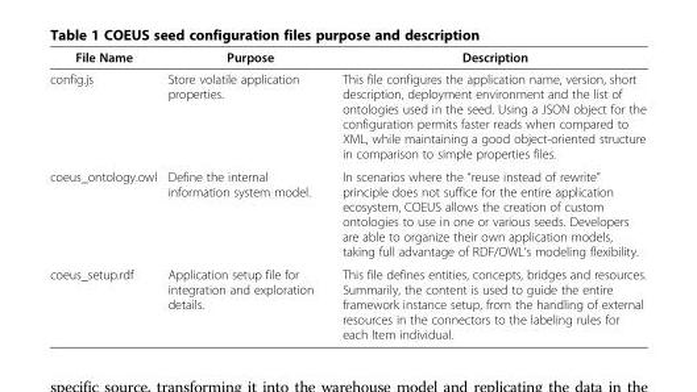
<table><thead><tr><td>File Name</td><td>Purpose</td><td>Description</td></tr></thead><tbody><tr><td>config.js</td><td>Store volatile application properties.</td><td>This file configures the application name, version, short description, deployment environment and the list of ontologies used in the seed. Using a JSON object for the configuration permits faster reads when compared to XML, while maintaining a good object-oriented structure in comparison to simple properties files.</td></tr><tr><td>coeus_ontology.owl</td><td>Define the internal information system model.</td><td>In scenarios where the “reuse instead of rewrite” principle does not suffice for the entire application ecosystem, COEUS allows the creation of custom ontologies to use in one or various seeds. Developers are able to organize their own application models, taking full advantage of RDF/OWL’s modeling flexibility.</td></tr><tr><td>coeus_setup.rdf</td><td>Application setup file for integration and exploration details.</td><td>This file defines entities, concepts, bridges and resources. Summarily, the content is used to guide the entire framework instance setup, from the handling of external resources in the connectors to the labeling rules for each Item individual.</td></tr></tbody></table>